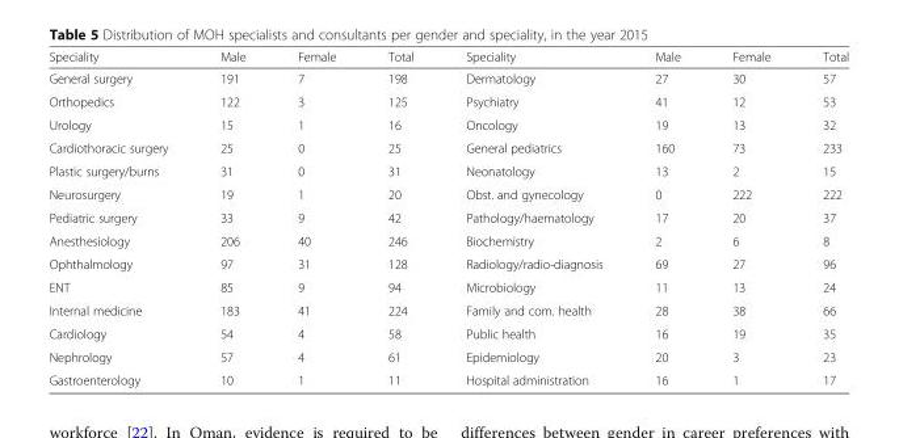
<table><thead><tr><td>Speciality</td><td>Male</td><td>Female</td><td>Total</td><td>Speciality</td><td>Male</td><td>Female</td><td>Total</td></tr></thead><tbody><tr><td>General surgery</td><td>191</td><td>7</td><td>198</td><td>Dermatology</td><td>27</td><td>30</td><td>57</td></tr><tr><td>Orthopedics</td><td>122</td><td>3</td><td>125</td><td>Psychiatry</td><td>41</td><td>12</td><td>53</td></tr><tr><td>Urology</td><td>15</td><td>1</td><td>16</td><td>Oncology</td><td>19</td><td>13</td><td>32</td></tr><tr><td>Cardiothoracic surgery</td><td>25</td><td>0</td><td>25</td><td>General pediatrics</td><td>160</td><td>73</td><td>233</td></tr><tr><td>Plastic surgery/burns</td><td>31</td><td>0</td><td>31</td><td>Neonatology</td><td>13</td><td>2</td><td>15</td></tr><tr><td>Neurosurgery</td><td>19</td><td>1</td><td>20</td><td>Obst. and gynecology</td><td>0</td><td>222</td><td>222</td></tr><tr><td>Pediatric surgery</td><td>33</td><td>9</td><td>42</td><td>Pathology/haematology</td><td>17</td><td>20</td><td>37</td></tr><tr><td>Anesthesiology</td><td>206</td><td>40</td><td>246</td><td>Biochemistry</td><td>2</td><td>6</td><td>8</td></tr><tr><td>Ophthalmology</td><td>97</td><td>31</td><td>128</td><td>Radiology/radio-diagnosis</td><td>69</td><td>27</td><td>96</td></tr><tr><td>ENT</td><td>85</td><td>9</td><td>94</td><td>Microbiology</td><td>11</td><td>13</td><td>24</td></tr><tr><td>Internal medicine</td><td>183</td><td>41</td><td>224</td><td>Family and com. health</td><td>28</td><td>38</td><td>66</td></tr><tr><td>Cardiology</td><td>54</td><td>4</td><td>58</td><td>Public health</td><td>16</td><td>19</td><td>35</td></tr><tr><td>Nephrology</td><td>57</td><td>4</td><td>61</td><td>Epidemiology</td><td>20</td><td>3</td><td>23</td></tr><tr><td>Gastroenterology</td><td>10</td><td>1</td><td>11</td><td>Hospital administration</td><td>16</td><td>1</td><td>17</td></tr></tbody></table>